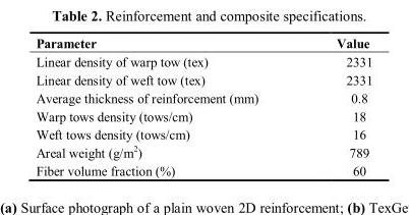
<table><thead><tr><td>Parameter</td><td>Value</td></tr></thead><tbody><tr><td>Linear density of warp tow (tex)</td><td>2331</td></tr><tr><td>Linear density of weft tow (tex)</td><td>2331</td></tr><tr><td>Average thickness of reinforcement (mm)</td><td>0.8</td></tr><tr><td>Warp tows density (tows/cm)</td><td>18</td></tr><tr><td>Weft tows density (tows/cm)</td><td>16</td></tr><tr><td>Areal weight (g/m<sup>2</sup>)</td><td>789</td></tr><tr><td>Fiber volume fraction (%)</td><td>60</td></tr></tbody></table>